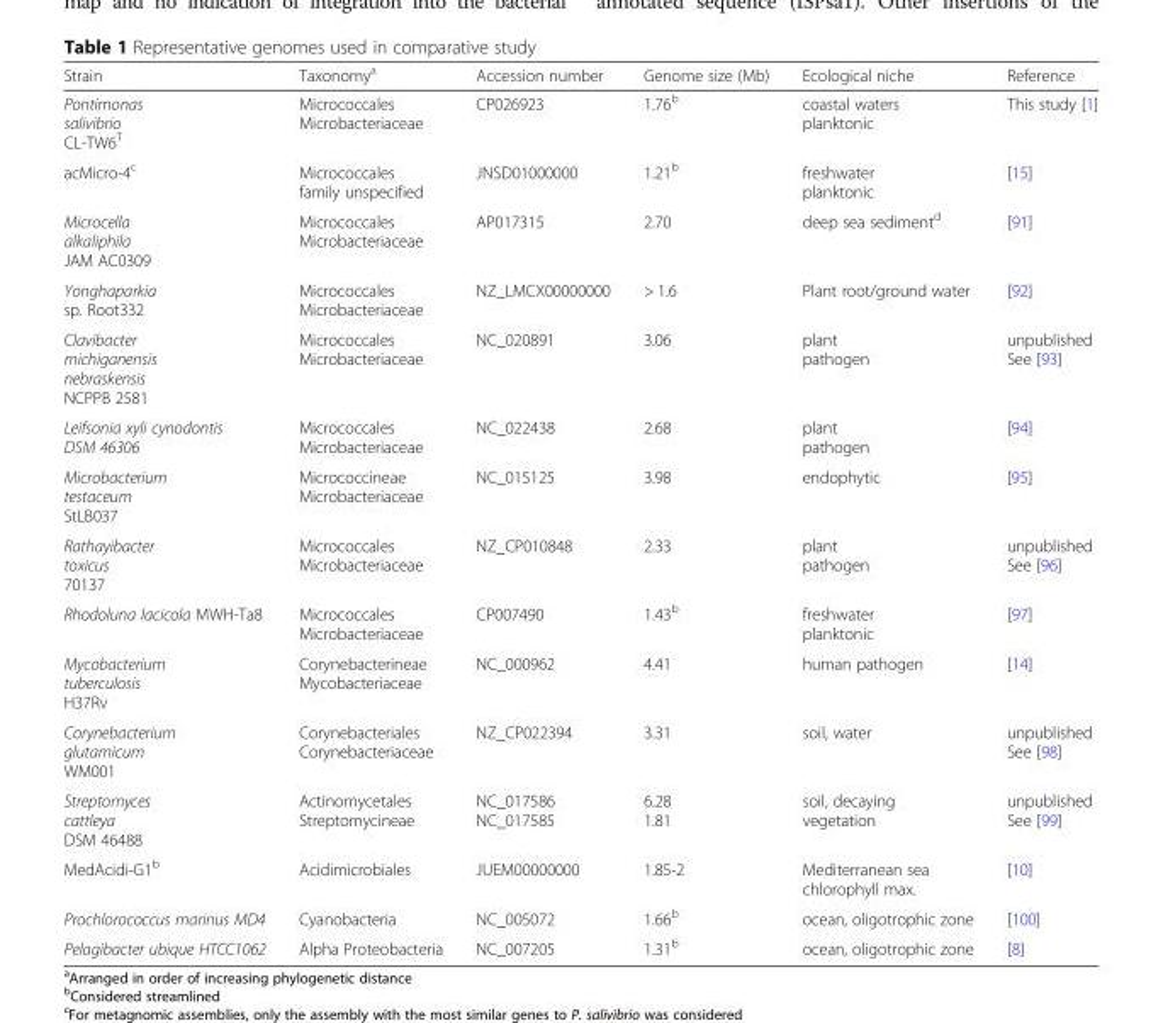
<table><thead><tr><td>Strain</td><td>Taxonomy<sup>a</sup></td><td>Accession number</td><td>Genome size (Mb)</td><td>Ecological niche</td><td>Reference</td></tr></thead><tbody><tr><td>Pontimonas salivibrio CL-TW6<sup>T</sup></td><td>Micrococcales Microbacteriaceae</td><td>CP026923</td><td>1.76<sup>b</sup></td><td>coastal waters planktonic</td><td>This study [1]</td></tr><tr><td>acMicro-4<sup>c</sup></td><td>Micrococcales family unspecified</td><td>JNSD01000000</td><td>1.21<sup>b</sup></td><td>freshwater planktonic</td><td>[15]</td></tr><tr><td>Microcella alkaliphila JAM AC0309</td><td>Micrococcales Microbacteriaceae</td><td>AP017315</td><td>2.70</td><td>deep sea sediment<sup>d</sup></td><td>[91]</td></tr><tr><td>Yonghaparkia sp. Root332</td><td>Micrococcales Microbacteriaceae</td><td>NZ_LMCX00000000</td><td>&gt; 1.6</td><td>Plant root/ground water</td><td>[92]</td></tr><tr><td>Clavibacter michiganensis nebraskensis NCPPB 2581</td><td>Micrococcales Microbacteriaceae</td><td>NC_020891</td><td>3.06</td><td>plant pathogen</td><td>unpublished See [93]</td></tr><tr><td>Leifsonia xyli cynodontis DSM 46306</td><td>Micrococcales Microbacteriaceae</td><td>NC_022438</td><td>2.68</td><td>plant pathogen</td><td>[94]</td></tr><tr><td>Microbacterium testaceum StLB037</td><td>Micrococcineae Microbacteriaceae</td><td>NC_015125</td><td>3.98</td><td>endophytic</td><td>[95]</td></tr><tr><td>Rathayibacter toxicus 70137</td><td>Micrococcales Microbacteriaceae</td><td>NZ_CP010848</td><td>2.33</td><td>plant pathogen</td><td>unpublished See [96]</td></tr><tr><td>Rhodoluna lacicola MWH-Ta8</td><td>Micrococcales Microbacteriaceae</td><td>CP007490</td><td>1.43<sup>b</sup></td><td>freshwater planktonic</td><td>[97]</td></tr><tr><td>Mycobacterium tuberculosis H37Rv</td><td>Corynebacterineae Mycobacteriaceae</td><td>NC_000962</td><td>4.41</td><td>human pathogen</td><td>[14]</td></tr><tr><td>Corynebacterium glutamicum WM001</td><td>Corynebacteriales Corynebacteriaceae</td><td>NZ_CP022394</td><td>3.31</td><td>soil, water</td><td>unpublished See [98]</td></tr><tr><td>Streptomyces cattleya DSM 46488</td><td>Actinomycetales Streptomycineae</td><td>NC_017586 NC_017585</td><td>6.28 1.81</td><td>soil, decaying vegetation</td><td>unpublished See [99]</td></tr><tr><td>MedAcidi-G1<sup>b</sup></td><td>Acidimicrobiales</td><td>JUEM00000000</td><td>1.85-2</td><td>Mediterranean sea chlorophyll max.</td><td>[10]</td></tr><tr><td>Prochlorococcus marinus MD4</td><td>Cyanobacteria</td><td>NC_005072</td><td>1.66<sup>b</sup></td><td>ocean, oligotrophic zone</td><td>[100]</td></tr><tr><td>Pelagibacter ubique HTCC1062</td><td>Alpha Proteobacteria</td><td>NC_007205</td><td>1.31<sup>b</sup></td><td>ocean, oligotrophic zone</td><td>[8]</td></tr></tbody></table>